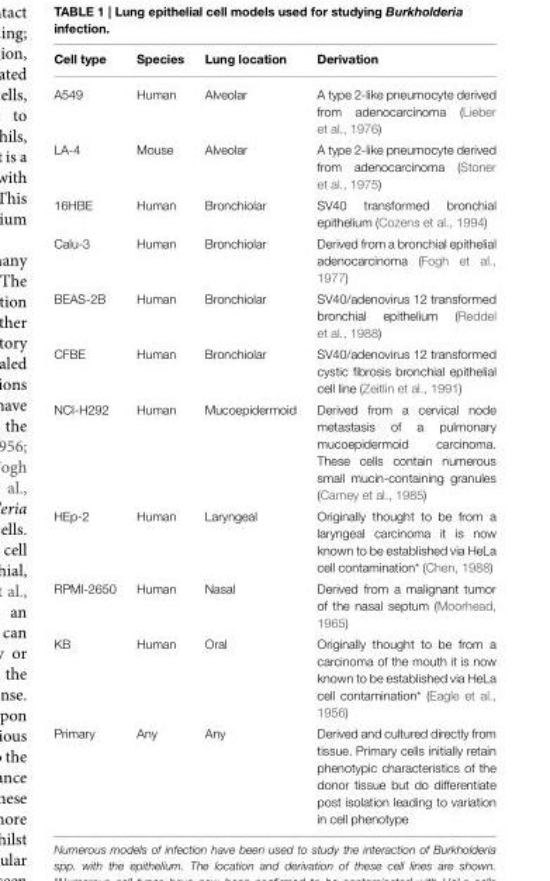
<table><thead><tr><td>Cell type</td><td>Species</td><td>Lung location</td><td>Derivation</td></tr></thead><tbody><tr><td>A549</td><td>Human</td><td>Alveolar</td><td>A type 2-like pneumocyte derived from adenocarcinoma (Lieber et al., 1976)</td></tr><tr><td>LA-4</td><td>Mouse</td><td>Alveolar</td><td>A type 2-like pneumocyte derived from adenocarcinoma (Stoner et al., 1975)</td></tr><tr><td>16HBE</td><td>Human</td><td>Bronchiolar</td><td>SV40 transformed bronchial epithelium (Cozens et al., 1994)</td></tr><tr><td>Calu-3</td><td>Human</td><td>Bronchiolar</td><td>Derived from a bronchial epithelial adenocarcinoma (Fogh et al., 1977)</td></tr><tr><td>BEAS-2B</td><td>Human</td><td>Bronchiolar</td><td>SV40/adenovirus 12 transformed bronchial epithelium (Reddel et al., 1988)</td></tr><tr><td>CFBE</td><td>Human</td><td>Bronchiolar</td><td>SV40/adenovirus 12 transformed cystic fibrosis bronchial epithelial cell line (Zeitlin et al., 1991)</td></tr><tr><td>NCI-H292</td><td>Human</td><td>Mucoepidermoid</td><td>Derived from a cervical node metastasis of a pulmonary mucoepidermoid carcinoma. These cells contain numerous small mucin-containing granules (Carney et al., 1985)</td></tr><tr><td>HEp-2</td><td>Human</td><td>Laryngeal</td><td>Originally thought to be from a laryngeal carcinoma it is now known to be established via HeLa cell contamination* (Chen, 1988)</td></tr><tr><td>RPMI-2650</td><td>Human</td><td>Nasal</td><td>Derived from a malignant tumor of the nasal septum (Moorhead, 1965)</td></tr><tr><td>KB</td><td>Human</td><td>Oral</td><td>Originally thought to be from a carcinoma of the mouth it is now known to be established via HeLa cell contamination* (Eagle et al., 1956)</td></tr><tr><td>Primary</td><td>Any</td><td>Any</td><td>Derived and cultured directly from tissue. Primary cells initially retain phenotypic characteristics of the donor tissue but do differentiate post isolation leading to variation in cell phenotype</td></tr></tbody></table>